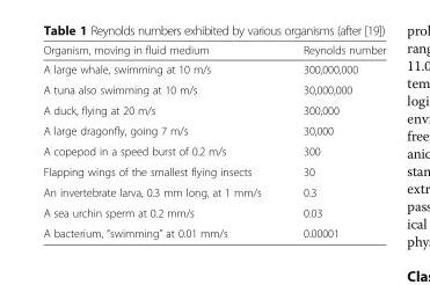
<table><thead><tr><td>Organism, moving in fluid medium</td><td>Reynolds number</td></tr></thead><tbody><tr><td>A large whale, swimming at 10 m/s</td><td>300,000,000</td></tr><tr><td>A tuna also swimming at 10 m/s</td><td>30,000,000</td></tr><tr><td>A duck, flying at 20 m/s</td><td>300,000</td></tr><tr><td>A large dragonfly, going 7 m/s</td><td>30,000</td></tr><tr><td>A copepod in a speed burst of 0.2 m/s</td><td>300</td></tr><tr><td>Flapping wings of the smallest flying insects</td><td>30</td></tr><tr><td>An invertebrate larva, 0.3 mm long, at 1 mm/s</td><td>0.3</td></tr><tr><td>A sea urchin sperm at 0.2 mm/s</td><td>0.03</td></tr><tr><td>A bacterium, “swimming” at 0.01 mm/s</td><td>0.00001</td></tr></tbody></table>